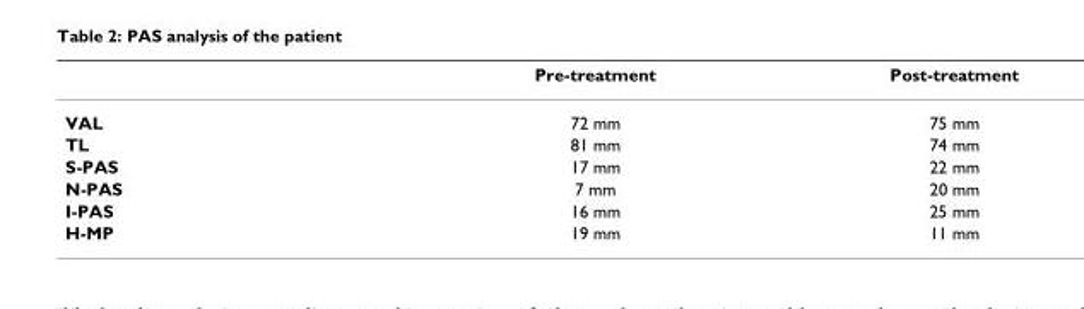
<table><thead><tr><td></td><td>Pre-treatment</td><td>Post-treatment</td></tr></thead><tbody><tr><td>VAL</td><td>72 mm</td><td>75 mm</td></tr><tr><td>TL</td><td>81 mm</td><td>74 mm</td></tr><tr><td>S-PAS</td><td>17 mm</td><td>22 mm</td></tr><tr><td>N-PAS</td><td>7 mm</td><td>20 mm</td></tr><tr><td>I-PAS</td><td>16 mm</td><td>25 mm</td></tr><tr><td>H-MP</td><td>19 mm</td><td>11 mm</td></tr></tbody></table>